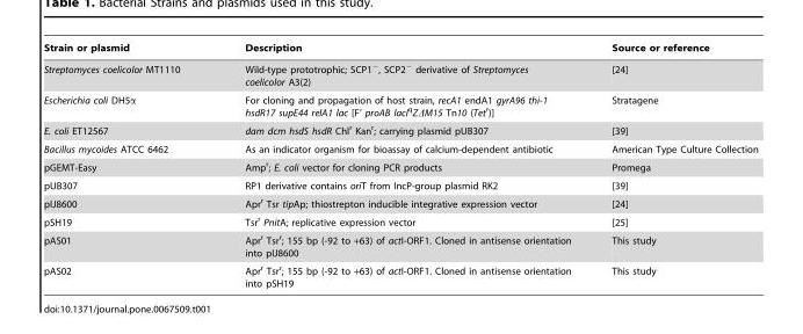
<table><thead><tr><td>Strain or plasmid</td><td>Description</td><td>Source or reference</td></tr></thead><tbody><tr><td>Streptomyces coelicolor MT1110</td><td>Wild-type prototrophic; SCP1<sup>−</sup>, SCP2<sup>−</sup> derivative of Streptomyces coelicolor A3(2)</td><td>[24]</td></tr><tr><td>Escherichia coli DH5α</td><td>For cloning and propagation of host strain, recA1 endA1 gyrA96 thi-1 hsdR17 supE44 relA1 lac [F’ proAB lacI<sup>q</sup>ZΔM15 Tn10 (Tet<sup>r</sup>)]</td><td>Stratagene</td></tr><tr><td>E. coli ET12567</td><td>dam dcm hsdS hsdR Chl<sup>r</sup> Kan<sup>r</sup>; carrying plasmid pUB307</td><td>[39]</td></tr><tr><td>Bacillus mycoides ATCC 6462</td><td>As an indicator organism for bioassay of calcium-dependent antibiotic</td><td>American Type Culture Collection</td></tr><tr><td>pGEMT-Easy</td><td>Amp<sup>r</sup>; E. coli vector for cloning PCR products</td><td>Promega</td></tr><tr><td>pUB307</td><td>RP1 derivative contains oriT from IncP-group plasmid RK2</td><td>[39]</td></tr><tr><td>pIJ8600</td><td>Apr<sup>r</sup> Tsr tipAp; thiostrepton inducible integrative expression vector</td><td>[24]</td></tr><tr><td>pSH19</td><td>Tsr<sup>r</sup> PnitA; replicative expression vector</td><td>[25]</td></tr><tr><td>pAS01</td><td>Apr<sup>r</sup> Tsr<sup>r</sup>; 155 bp (-92 to +63) of actI-ORF1. Cloned in antisense orientation into pIJ8600</td><td>This study</td></tr><tr><td>pAS02</td><td>Apr<sup>r</sup> Tsr<sup>r</sup>; 155 bp (-92 to +63) of actI-ORF1. Cloned in antisense orientation into pSH19</td><td>This study</td></tr></tbody></table>